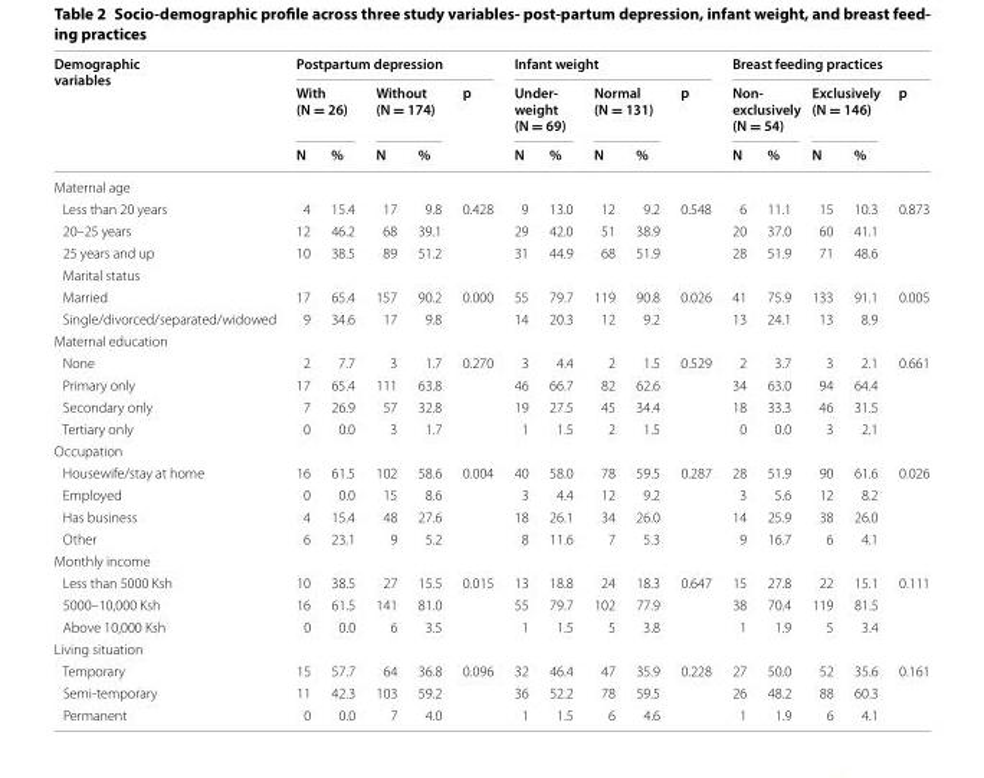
<table><thead><tr><td rowspan="3">Demographic variables</td><td colspan="5">Postpartum depression</td><td colspan="5">Infant weight</td><td colspan="5">Breast feeding practices</td></tr><tr><td colspan="2">With (N = 26)</td><td colspan="2">Without (N = 174)</td><td rowspan="2">p</td><td colspan="2">Under‑ weight (N = 69)</td><td colspan="2">Normal (N = 131)</td><td rowspan="2">p</td><td colspan="2">Non‑ exclusively (N = 54)</td><td colspan="2">Exclusively (N = 146)</td><td rowspan="2">p</td></tr><tr><td>N</td><td>%</td><td>N</td><td>%</td><td>N</td><td>%</td><td>N</td><td>%</td><td>N</td><td>%</td><td>N</td><td>%</td></tr></thead><tbody><tr><td colspan="16">Maternal age</td></tr><tr><td>Less than 20 years</td><td>4</td><td>15.4</td><td>17</td><td>9.8</td><td rowspan="3">0.428</td><td>9</td><td>13.0</td><td>12</td><td>9.2</td><td rowspan="3">0.548</td><td>6</td><td>11.1</td><td>15</td><td>10.3</td><td rowspan="3">0.873</td></tr><tr><td>20–25 years</td><td>12</td><td>46.2</td><td>68</td><td>39.1</td><td>29</td><td>42.0</td><td>51</td><td>38.9</td><td>20</td><td>37.0</td><td>60</td><td>41.1</td></tr><tr><td>25 years and up</td><td>10</td><td>38.5</td><td>89</td><td>51.2</td><td>31</td><td>44.9</td><td>68</td><td>51.9</td><td>28</td><td>51.9</td><td>71</td><td>48.6</td></tr><tr><td colspan="16">Marital status</td></tr><tr><td>Married</td><td>17</td><td>65.4</td><td>157</td><td>90.2</td><td rowspan="2">0.000</td><td>55</td><td>79.7</td><td>119</td><td>90.8</td><td rowspan="2">0.026</td><td>41</td><td>75.9</td><td>133</td><td>91.1</td><td rowspan="2">0.005</td></tr><tr><td>Single/divorced/separated/widowed</td><td>9</td><td>34.6</td><td>17</td><td>9.8</td><td>14</td><td>20.3</td><td>12</td><td>9.2</td><td>13</td><td>24.1</td><td>13</td><td>8.9</td></tr><tr><td colspan="16">Maternal education</td></tr><tr><td>None</td><td>2</td><td>7.7</td><td>3</td><td>1.7</td><td rowspan="4">0.270</td><td>3</td><td>4.4</td><td>2</td><td>1.5</td><td rowspan="4">0.529</td><td>2</td><td>3.7</td><td>3</td><td>2.1</td><td rowspan="4">0.661</td></tr><tr><td>Primary only</td><td>17</td><td>65.4</td><td>111</td><td>63.8</td><td>46</td><td>66.7</td><td>82</td><td>62.6</td><td>34</td><td>63.0</td><td>94</td><td>64.4</td></tr><tr><td>Secondary only</td><td>7</td><td>26.9</td><td>57</td><td>32.8</td><td>19</td><td>27.5</td><td>45</td><td>34.4</td><td>18</td><td>33.3</td><td>46</td><td>31.5</td></tr><tr><td>Tertiary only</td><td>0</td><td>0.0</td><td>3</td><td>1.7</td><td>1</td><td>1.5</td><td>2</td><td>1.5</td><td>0</td><td>0.0</td><td>3</td><td>2.1</td></tr><tr><td colspan="16">Occupation</td></tr><tr><td>Housewife/stay at home</td><td>16</td><td>61.5</td><td>102</td><td>58.6</td><td rowspan="4">0.004</td><td>40</td><td>58.0</td><td>78</td><td>59.5</td><td rowspan="4">0.287</td><td>28</td><td>51.9</td><td>90</td><td>61.6</td><td rowspan="4">0.026</td></tr><tr><td>Employed</td><td>0</td><td>0.0</td><td>15</td><td>8.6</td><td>3</td><td>4.4</td><td>12</td><td>9.2</td><td>3</td><td>5.6</td><td>12</td><td>8.2</td></tr><tr><td>Has business</td><td>4</td><td>15.4</td><td>48</td><td>27.6</td><td>18</td><td>26.1</td><td>34</td><td>26.0</td><td>14</td><td>25.9</td><td>38</td><td>26.0</td></tr><tr><td>Other</td><td>6</td><td>23.1</td><td>9</td><td>5.2</td><td>8</td><td>11.6</td><td>7</td><td>5.3</td><td>9</td><td>16.7</td><td>6</td><td>4.1</td></tr><tr><td colspan="16">Monthly income</td></tr><tr><td>Less than 5000 Ksh</td><td>10</td><td>38.5</td><td>27</td><td>15.5</td><td rowspan="3">0.015</td><td>13</td><td>18.8</td><td>24</td><td>18.3</td><td rowspan="3">0.647</td><td>15</td><td>27.8</td><td>22</td><td>15.1</td><td rowspan="3">0.111</td></tr><tr><td>5000–10,000 Ksh</td><td>16</td><td>61.5</td><td>141</td><td>81.0</td><td>55</td><td>79.7</td><td>102</td><td>77.9</td><td>38</td><td>70.4</td><td>119</td><td>81.5</td></tr><tr><td>Above 10,000 Ksh</td><td>0</td><td>0.0</td><td>6</td><td>3.5</td><td>1</td><td>1.5</td><td>5</td><td>3.8</td><td>1</td><td>1.9</td><td>5</td><td>3.4</td></tr><tr><td colspan="16">Living situation</td></tr><tr><td>Temporary</td><td>15</td><td>57.7</td><td>64</td><td>36.8</td><td rowspan="3">0.096</td><td>32</td><td>46.4</td><td>47</td><td>35.9</td><td rowspan="3">0.228</td><td>27</td><td>50.0</td><td>52</td><td>35.6</td><td rowspan="3">0.161</td></tr><tr><td>Semi-temporary</td><td>11</td><td>42.3</td><td>103</td><td>59.2</td><td>36</td><td>52.2</td><td>78</td><td>59.5</td><td>26</td><td>48.2</td><td>88</td><td>60.3</td></tr><tr><td>Permanent</td><td>0</td><td>0.0</td><td>7</td><td>4.0</td><td>1</td><td>1.5</td><td>6</td><td>4.6</td><td>1</td><td>1.9</td><td>6</td><td>4.1</td></tr></tbody></table>